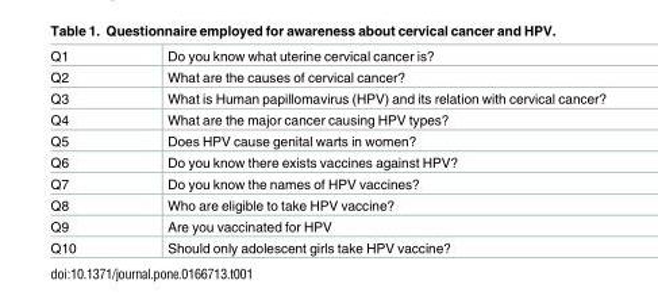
<table><tbody><tr><td>Q1</td><td>Do you know what uterine cervical cancer is?</td></tr><tr><td>Q2</td><td>What are the causes of cervical cancer?</td></tr><tr><td>Q3</td><td>What is Human papillomavirus (HPV) and its relation with cervical cancer?</td></tr><tr><td>Q4</td><td>What are the major cancer causing HPV types?</td></tr><tr><td>Q5</td><td>Does HPV cause genital warts in women?</td></tr><tr><td>Q6</td><td>Do you know there exists vaccines against HPV?</td></tr><tr><td>Q7</td><td>Do you know the names of HPV vaccines?</td></tr><tr><td>Q8</td><td>Who are eligible to take HPV vaccine?</td></tr><tr><td>Q9</td><td>Are you vaccinated for HPV</td></tr><tr><td>Q10</td><td>Should only adolescent girls take HPV vaccine?</td></tr></tbody></table>